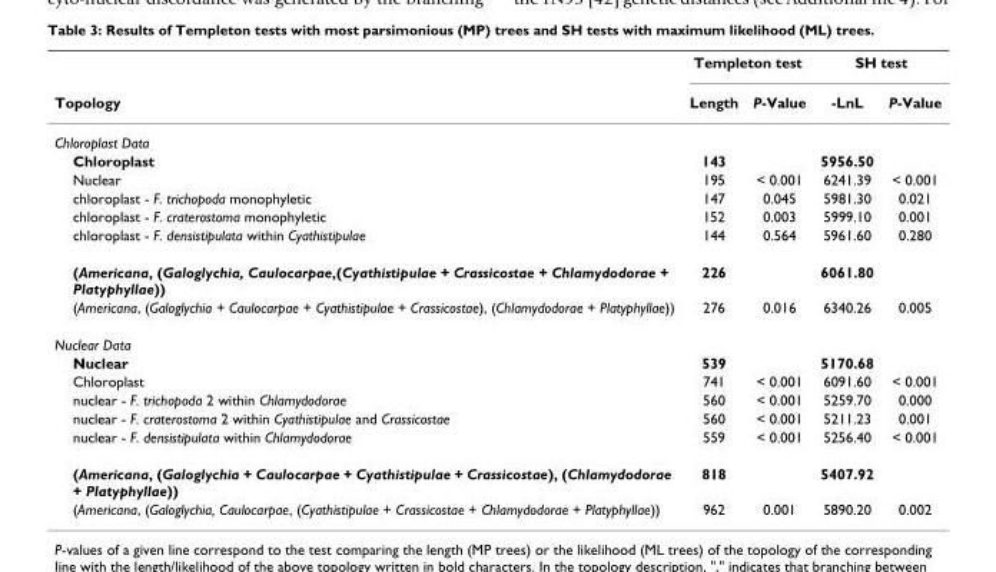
<table><thead><tr><td rowspan="2">Topology</td><td colspan="2">Templeton test</td><td colspan="2">SH test</td></tr><tr><td>Length</td><td>P-Value</td><td>-LnL</td><td>P-Value</td></tr></thead><tbody><tr><td colspan="5">Chloroplast Data</td></tr><tr><td>Chloroplast</td><td>143</td><td></td><td>5956.50</td><td></td></tr><tr><td>Nuclear</td><td>195</td><td>&lt; 0.001</td><td>6241.39</td><td>&lt; 0.001</td></tr><tr><td>chloroplast - F. trichopoda monophyletic</td><td>147</td><td>0.045</td><td>5981.30</td><td>0.021</td></tr><tr><td>chloroplast - F. craterostoma monophyletic</td><td>152</td><td>0.003</td><td>5999.10</td><td>0.001</td></tr><tr><td>chloroplast - F. densistipulata within Cyathistipulae</td><td>144</td><td>0.564</td><td>5961.60</td><td>0.280</td></tr><tr><td>(Americana, (Galoglychia, Caulocarpae,(Cyathistipulae + Crassicostae + Chlamydodorae + Platyphyllae))</td><td>226</td><td></td><td>6061.80</td><td></td></tr><tr><td>(Americana, (Galoglychia + Caulocarpae + Cyathistipulae + Crassicostae), (Chlamydodorae + Platyphyllae))</td><td>276</td><td>0.016</td><td>6340.26</td><td>0.005</td></tr><tr><td colspan="5">Nuclear Data</td></tr><tr><td>Nuclear</td><td>539</td><td></td><td>5170.68</td><td></td></tr><tr><td>Chloroplast</td><td>741</td><td>&lt; 0.001</td><td>6091.60</td><td>&lt; 0.001</td></tr><tr><td>nuclear - F. trichopoda 2 within Chlamydodorae</td><td>560</td><td>&lt; 0.001</td><td>5259.70</td><td>0.000</td></tr><tr><td>nuclear - F. craterostoma 2 within Cyathistipulae and Crassicostae</td><td>560</td><td>&lt; 0.001</td><td>5211.23</td><td>0.001</td></tr><tr><td>nuclear - F. densistipulata within Chlamydodorae</td><td>559</td><td>&lt; 0.001</td><td>5256.40</td><td>&lt; 0.001</td></tr><tr><td>(Americana, (Galoglychia + Caulocarpae + Cyathistipulae + Crassicostae), (Chlamydodorae + Platyphyllae))</td><td>818</td><td></td><td>5407.92</td><td></td></tr><tr><td>(Americana, (Galoglychia, Caulocarpae, (Cyathistipulae + Crassicostae + Chlamydodorae + Platyphyllae))</td><td>962</td><td>0.001</td><td>5890.20</td><td>0.002</td></tr></tbody></table>